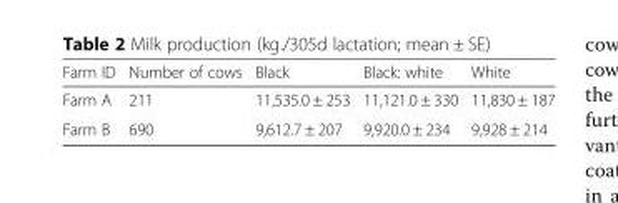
<table><thead><tr><td>Farm ID</td><td>Number of cows</td><td>Black</td><td>Black: white</td><td>White</td></tr></thead><tbody><tr><td>Farm A</td><td>211</td><td>11,535.0 ± 253</td><td>11,121.0 ± 330</td><td>11,830 ± 187</td></tr><tr><td>Farm B</td><td>690</td><td>9,612.7 ± 207</td><td>9,920.0 ± 234</td><td>9,928 ± 214</td></tr></tbody></table>